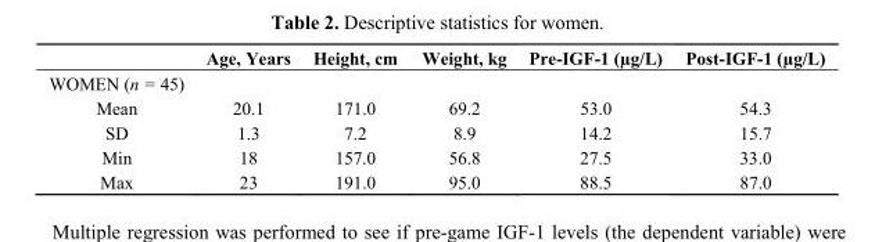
<table><thead><tr><td></td><td>Age, Years</td><td>Height, cm</td><td>Weight, kg</td><td>Pre-IGF-1 (µg/L)</td><td>Post-IGF-1 (µg/L)</td></tr></thead><tbody><tr><td colspan="6">WOMEN (n = 45)</td></tr><tr><td>Mean</td><td>20.1</td><td>171.0</td><td>69.2</td><td>53.0</td><td>54.3</td></tr><tr><td>SD</td><td>1.3</td><td>7.2</td><td>8.9</td><td>14.2</td><td>15.7</td></tr><tr><td>Min</td><td>18</td><td>157.0</td><td>56.8</td><td>27.5</td><td>33.0</td></tr><tr><td>Max</td><td>23</td><td>191.0</td><td>95.0</td><td>88.5</td><td>87.0</td></tr></tbody></table>